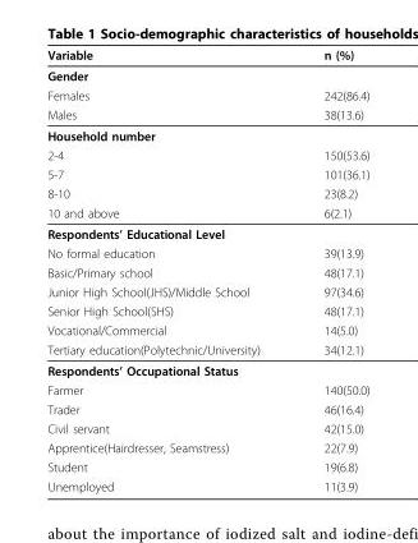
<table><thead><tr><td>Variable</td><td>n (%)</td></tr></thead><tbody><tr><td colspan="2">Gender</td></tr><tr><td>Females</td><td>242(86.4)</td></tr><tr><td>Males</td><td>38(13.6)</td></tr><tr><td colspan="2">Household number</td></tr><tr><td>2-4</td><td>150(53.6)</td></tr><tr><td>5-7</td><td>101(36.1)</td></tr><tr><td>8-10</td><td>23(8.2)</td></tr><tr><td>10 and above</td><td>6(2.1)</td></tr><tr><td colspan="2">Respondents’ Educational Level</td></tr><tr><td>No formal education</td><td>39(13.9)</td></tr><tr><td>Basic/Primary school</td><td>48(17.1)</td></tr><tr><td>Junior High School(JHS)/Middle School</td><td>97(34.6)</td></tr><tr><td>Senior High School(SHS)</td><td>48(17.1)</td></tr><tr><td>Vocational/Commercial</td><td>14(5.0)</td></tr><tr><td>Tertiary education(Polytechnic/University)</td><td>34(12.1)</td></tr><tr><td colspan="2">Respondents’ Occupational Status</td></tr><tr><td>Farmer</td><td>140(50.0)</td></tr><tr><td>Trader</td><td>46(16.4)</td></tr><tr><td>Civil servant</td><td>42(15.0)</td></tr><tr><td>Apprentice(Hairdresser, Seamstress)</td><td>22(7.9)</td></tr><tr><td>Student</td><td>19(6.8)</td></tr><tr><td>Unemployed</td><td>11(3.9)</td></tr></tbody></table>